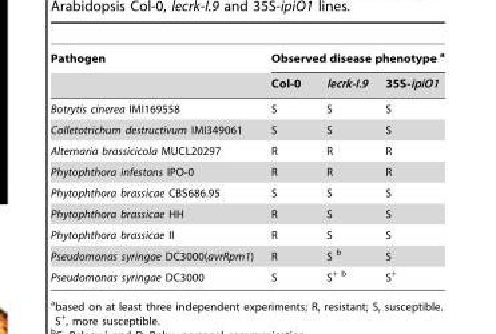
<table><thead><tr><td rowspan="2">Pathogen</td><td colspan="3">Observed disease phenotype a</td></tr><tr><td>Col-0</td><td>lecrk-I.9</td><td>35S-ipiO1</td></tr></thead><tbody><tr><td>Botrytis cinerea IMI169558</td><td>S</td><td>S</td><td>S</td></tr><tr><td>Colletotrichum destructivum IMI349061</td><td>S</td><td>S</td><td>S</td></tr><tr><td>Alternaria brassicicola MUCL20297</td><td>R</td><td>R</td><td>R</td></tr><tr><td>Phytophthora infestans IPO-0</td><td>R</td><td>R</td><td>R</td></tr><tr><td>Phytophthora brassicae CBS686.95</td><td>S</td><td>S</td><td>S</td></tr><tr><td>Phytophthora brassicae HH</td><td>R</td><td>S</td><td>S</td></tr><tr><td>Phytophthora brassicae II</td><td>R</td><td>S</td><td>S</td></tr><tr><td>Pseudomonas syringae DC3000(avrRpm1)</td><td>R</td><td>S b</td><td>S</td></tr><tr><td>Pseudomonas syringae DC3000</td><td>S</td><td>S<sup>+</sup> b</td><td>S<sup>+</sup></td></tr></tbody></table>